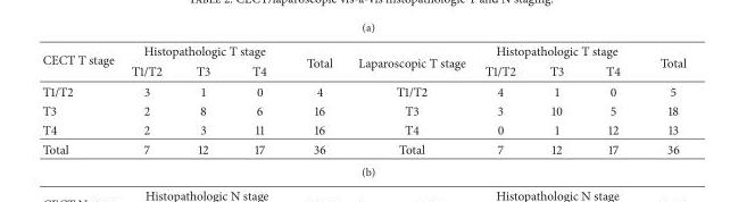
<table><thead><tr><td rowspan="2">CECT T stage</td><td colspan="3">Histopathologic T stage</td><td rowspan="2">Total</td><td rowspan="2">Laparoscopic T stage</td><td colspan="3">Histopathologic T stage</td><td rowspan="2">Total</td></tr><tr><td>T1/T2</td><td>T3</td><td>T4</td><td>T1/T2</td><td>T3</td><td>T4</td></tr></thead><tbody><tr><td>T1/T2</td><td>3</td><td>1</td><td>0</td><td>4</td><td>T1/T2</td><td>4</td><td>1</td><td>0</td><td>5</td></tr><tr><td>T3</td><td>2</td><td>8</td><td>6</td><td>16</td><td>T3</td><td>3</td><td>10</td><td>5</td><td>18</td></tr><tr><td>T4</td><td>2</td><td>3</td><td>11</td><td>16</td><td>T4</td><td>0</td><td>1</td><td>12</td><td>13</td></tr><tr><td>Total</td><td>7</td><td>12</td><td>17</td><td>36</td><td>Total</td><td>7</td><td>12</td><td>17</td><td>36</td></tr></tbody></table>